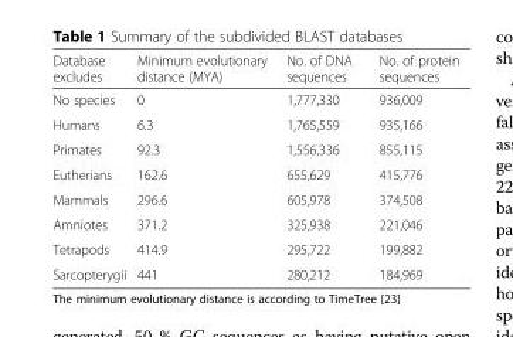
<table><thead><tr><td>Database excludes</td><td>Minimum evolutionary distance (MYA)</td><td>No. of DNA sequences</td><td>No. of protein sequences</td></tr></thead><tbody><tr><td>No species</td><td>0</td><td>1,777,330</td><td>936,009</td></tr><tr><td>Humans</td><td>6.3</td><td>1,765,559</td><td>935,166</td></tr><tr><td>Primates</td><td>92.3</td><td>1,556,336</td><td>855,115</td></tr><tr><td>Eutherians</td><td>162.6</td><td>655,629</td><td>415,776</td></tr><tr><td>Mammals</td><td>296.6</td><td>605,978</td><td>374,508</td></tr><tr><td>Amniotes</td><td>371.2</td><td>325,938</td><td>221,046</td></tr><tr><td>Tetrapods</td><td>414.9</td><td>295,722</td><td>199,882</td></tr><tr><td>Sarcopterygii</td><td>441</td><td>280,212</td><td>184,969</td></tr></tbody></table>